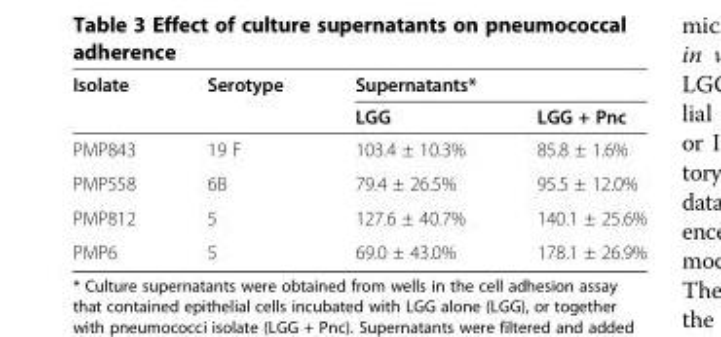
<table><thead><tr><td rowspan="2">Isolate</td><td rowspan="2">Serotype</td><td colspan="2">Supernatants*</td></tr><tr><td>LGG</td><td>LGG + Pnc</td></tr></thead><tbody><tr><td>PMP843</td><td>19 F</td><td>103.4 ± 10.3%</td><td>85.8 ± 1.6%</td></tr><tr><td>PMP558</td><td>6B</td><td>79.4 ± 26.5%</td><td>95.5 ± 12.0%</td></tr><tr><td>PMP812</td><td>5</td><td>127.6 ± 40.7%</td><td>140.1 ± 25.6%</td></tr><tr><td>PMP6</td><td>5</td><td>69.0 ± 43.0%</td><td>178.1 ± 26.9%</td></tr></tbody></table>